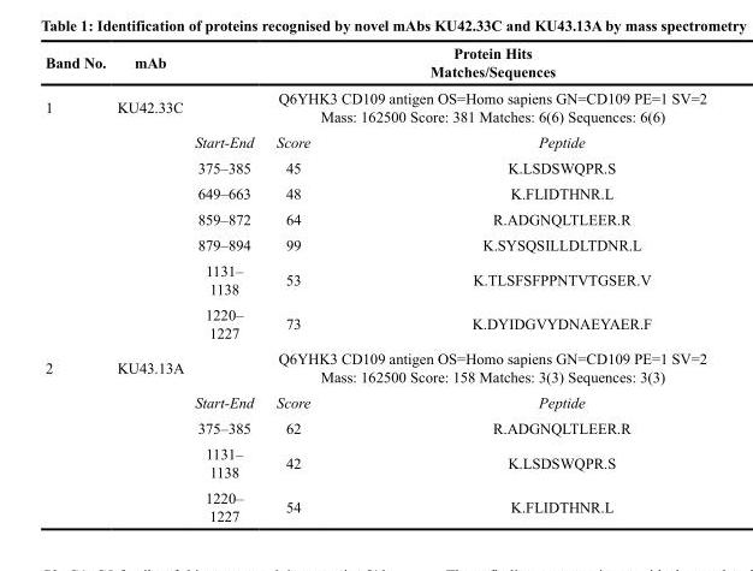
<table><thead><tr><td rowspan="3">Band No. 1</td><td rowspan="3">mAb KU42.33C</td><td rowspan="2" colspan="3">Protein Hits Matches/Sequences Q6YHK3 CD109 antigen OS=Homo sapiens GN=CD109 PE=1 SV=2 Mass: 162500 Score: 381 Matches: 6(6) Sequences: 6(6)</td></tr><tr></tr><tr><td>Start-End</td><td>Score</td><td>Peptide</td></tr></thead><tbody><tr><td></td><td></td><td>375–385</td><td>45</td><td>K.LSDSWQPR.S</td></tr><tr><td></td><td></td><td>649–663</td><td>48</td><td>K.FLIDTHNR.L</td></tr><tr><td></td><td></td><td>859–872</td><td>64</td><td>R.ADGNQLTLEER.R</td></tr><tr><td></td><td></td><td>879–894</td><td>99</td><td>K.SYSQSILLDLTDNR.L</td></tr><tr><td></td><td></td><td>1131– 1138</td><td>53</td><td>K.TLSFSFPPNTVTGSER.V</td></tr><tr><td></td><td></td><td>1220– 1227</td><td>73</td><td>K.DYIDGVYDNAEYAER.F</td></tr><tr><td rowspan="5">2</td><td>KU43.13A</td><td colspan="3">Q6YHK3 CD109 antigen OS=Homo sapiens GN=CD109 PE=1 SV=2 Mass: 162500 Score: 158 Matches: 3(3) Sequences: 3(3)</td></tr><tr><td></td><td>Start-End</td><td>Score</td><td>Peptide</td></tr><tr><td></td><td>375–385</td><td>62</td><td>R.ADGNQLTLEER.R</td></tr><tr><td></td><td>1131– 1138</td><td>42</td><td>K.LSDSWQPR.S</td></tr><tr><td></td><td>1220– 1227</td><td>54</td><td>K.FLIDTHNR.L</td></tr></tbody></table>